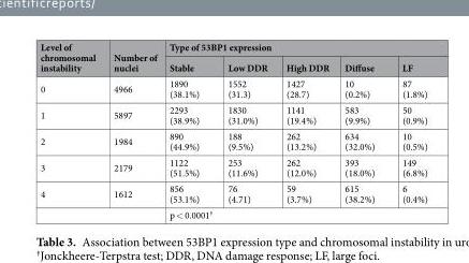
<table><thead><tr><td rowspan="2">Level of chromosomal instability</td><td rowspan="2">Number of nuclei</td><td colspan="5">Type of 53BP1 expression</td></tr><tr><td>Stable</td><td>Low DDR</td><td>High DDR</td><td>Diffuse</td><td>LF</td></tr></thead><tbody><tr><td>0</td><td>4966</td><td>1890 (38.1%)</td><td>1552 (31.3)</td><td>1427 (28.7)</td><td>10 (0.2%)</td><td>87 (1.8%)</td></tr><tr><td>1</td><td>5897</td><td>2293 (38.9%)</td><td>1830 (31.0%)</td><td>1141 (19.4%)</td><td>583 (9.9%)</td><td>50 (0.9%)</td></tr><tr><td>2</td><td>1984</td><td>890 (44.9%)</td><td>188 (9.5%)</td><td>262 (13.2%)</td><td>634 (32.0%)</td><td>10 (0.5%)</td></tr><tr><td>3</td><td>2179</td><td>1122 (51.5%)</td><td>253 (11.6%)</td><td>262 (12.0%)</td><td>393 (18.0%)</td><td>149 (6.8%)</td></tr><tr><td>4</td><td>1612</td><td>856 (53.1%)</td><td>76 (4.71)</td><td>59 (3.7%)</td><td>615 (38.2%)</td><td>6 (0.4%)</td></tr><tr><td colspan="2"></td><td colspan="5">p &lt; 0.0001<sup>†</sup></td></tr></tbody></table>